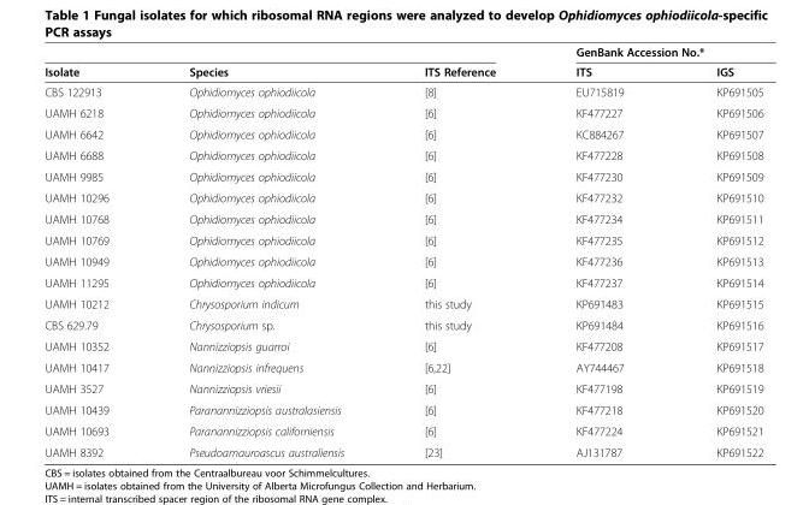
<table><thead><tr><td rowspan="2">Isolate</td><td rowspan="2">Species</td><td rowspan="2">ITS Reference</td><td colspan="2">GenBank Accession No.*</td></tr><tr><td>ITS</td><td>IGS</td></tr></thead><tbody><tr><td>CBS 122913</td><td>Ophidiomyces ophiodiicola</td><td>[8]</td><td>EU715819</td><td>KP691505</td></tr><tr><td>UAMH 6218</td><td>Ophidiomyces ophiodiicola</td><td>[6]</td><td>KF477227</td><td>KP691506</td></tr><tr><td>UAMH 6642</td><td>Ophidiomyces ophiodiicola</td><td>[6]</td><td>KC884267</td><td>KP691507</td></tr><tr><td>UAMH 6688</td><td>Ophidiomyces ophiodiicola</td><td>[6]</td><td>KF477228</td><td>KP691508</td></tr><tr><td>UAMH 9985</td><td>Ophidiomyces ophiodiicola</td><td>[6]</td><td>KF477230</td><td>KP691509</td></tr><tr><td>UAMH 10296</td><td>Ophidiomyces ophiodiicola</td><td>[6]</td><td>KF477232</td><td>KP691510</td></tr><tr><td>UAMH 10768</td><td>Ophidiomyces ophiodiicola</td><td>[6]</td><td>KF477234</td><td>KP691511</td></tr><tr><td>UAMH 10769</td><td>Ophidiomyces ophiodiicola</td><td>[6]</td><td>KF477235</td><td>KP691512</td></tr><tr><td>UAMH 10949</td><td>Ophidiomyces ophiodiicola</td><td>[6]</td><td>KF477236</td><td>KP691513</td></tr><tr><td>UAMH 11295</td><td>Ophidiomyces ophiodiicola</td><td>[6]</td><td>KF477237</td><td>KP691514</td></tr><tr><td>UAMH 10212</td><td>Chrysosporium indicum</td><td>this study</td><td>KP691483</td><td>KP691515</td></tr><tr><td>CBS 629.79</td><td>Chrysosporium sp.</td><td>this study</td><td>KP691484</td><td>KP691516</td></tr><tr><td>UAMH 10352</td><td>Nannizziopsis guarroi</td><td>[6]</td><td>KF477208</td><td>KP691517</td></tr><tr><td>UAMH 10417</td><td>Nannizziopsis infrequens</td><td>[6,22]</td><td>AY744467</td><td>KP691518</td></tr><tr><td>UAMH 3527</td><td>Nannizziopsis vriesii</td><td>[6]</td><td>KF477198</td><td>KP691519</td></tr><tr><td>UAMH 10439</td><td>Paranannizziopsis australasiensis</td><td>[6]</td><td>KF477218</td><td>KP691520</td></tr><tr><td>UAMH 10693</td><td>Paranannizziopsis californiensis</td><td>[6]</td><td>KF477224</td><td>KP691521</td></tr><tr><td>UAMH 8392</td><td>Pseudoamauroascus australiensis</td><td>[23]</td><td>AJ131787</td><td>KP691522</td></tr></tbody></table>